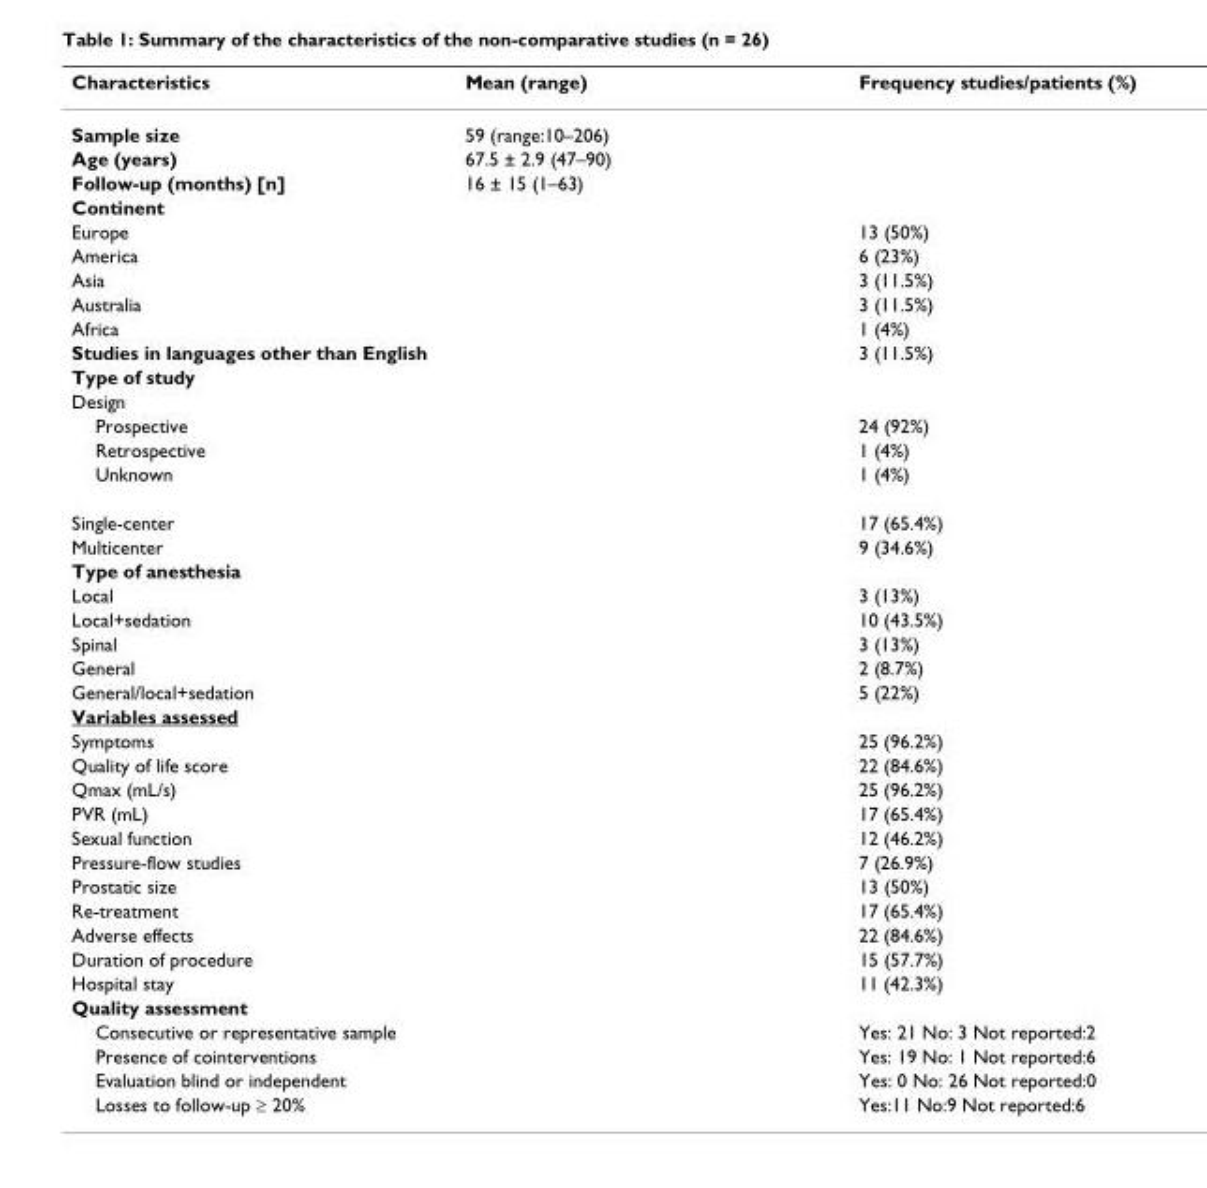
<table><thead><tr><td>Characteristics</td><td>Mean (range)</td><td>Frequency studies/patients (%)</td></tr></thead><tbody><tr><td>Sample size</td><td>59 (range:10–206)</td><td></td></tr><tr><td>Age (years)</td><td>67.5 ± 2.9 (47–90)</td><td></td></tr><tr><td>Follow-up (months) [n]</td><td>16 ± 15 (1–63)</td><td></td></tr><tr><td colspan="3">Continent</td></tr><tr><td>Europe</td><td></td><td>13 (50%)</td></tr><tr><td>America</td><td></td><td>6 (23%)</td></tr><tr><td>Asia</td><td></td><td>3 (11.5%)</td></tr><tr><td>Australia</td><td></td><td>3 (11.5%)</td></tr><tr><td>Africa</td><td></td><td>1 (4%)</td></tr><tr><td>Studies in languages other than English</td><td></td><td>3 (11.5%)</td></tr><tr><td colspan="3">Type of study</td></tr><tr><td colspan="3">Design</td></tr><tr><td>Prospective</td><td></td><td>24 (92%)</td></tr><tr><td>Retrospective</td><td></td><td>1 (4%)</td></tr><tr><td>Unknown</td><td></td><td>1 (4%)</td></tr><tr><td>Single-center</td><td></td><td>17 (65.4%)</td></tr><tr><td>Multicenter</td><td></td><td>9 (34.6%)</td></tr><tr><td colspan="3">Type of anesthesia</td></tr><tr><td>Local</td><td></td><td>3 (13%)</td></tr><tr><td>Local+sedation</td><td></td><td>10 (43.5%)</td></tr><tr><td>Spinal</td><td></td><td>3 (13%)</td></tr><tr><td>General</td><td></td><td>2 (8.7%)</td></tr><tr><td>General/local+sedation</td><td></td><td>5 (22%)</td></tr><tr><td colspan="3">Variables assessed</td></tr><tr><td>Symptoms</td><td></td><td>25 (96.2%)</td></tr><tr><td>Quality of life score</td><td></td><td>22 (84.6%)</td></tr><tr><td>Qmax (mL/s)</td><td></td><td>25 (96.2%)</td></tr><tr><td>PVR (mL)</td><td></td><td>17 (65.4%)</td></tr><tr><td>Sexual function</td><td></td><td>12 (46.2%)</td></tr><tr><td>Pressure-flow studies</td><td></td><td>7 (26.9%)</td></tr><tr><td>Prostatic size</td><td></td><td>13 (50%)</td></tr><tr><td>Re-treatment</td><td></td><td>17 (65.4%)</td></tr><tr><td>Adverse effects</td><td></td><td>22 (84.6%)</td></tr><tr><td>Duration of procedure</td><td></td><td>15 (57.7%)</td></tr><tr><td>Hospital stay</td><td></td><td>11 (42.3%)</td></tr><tr><td colspan="3">Quality assessment</td></tr><tr><td>Consecutive or representative sample</td><td></td><td>Yes: 21 No: 3 Not reported:2</td></tr><tr><td>Presence of cointerventions</td><td></td><td>Yes: 19 No: 1 Not reported:6</td></tr><tr><td>Evaluation blind or independent</td><td></td><td>Yes: 0 No: 26 Not reported:0</td></tr><tr><td>Losses to follow-up ≥ 20%</td><td></td><td>Yes:11 No:9 Not reported:6</td></tr></tbody></table>